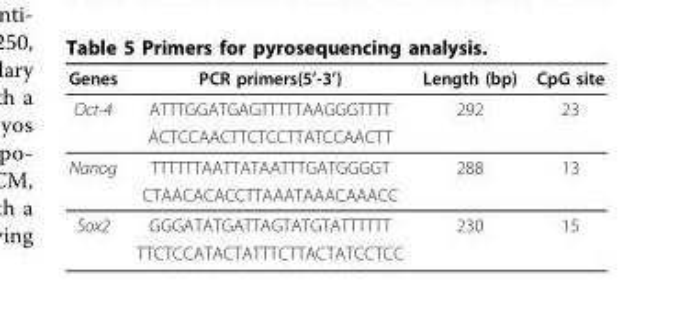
<table><thead><tr><td>Genes</td><td>PCR primers(5’-3’)</td><td>Length (bp)</td><td>CpG site</td></tr></thead><tbody><tr><td rowspan="2">Oct-4</td><td>ATTTGGATGAGTTTTTAAGGGTTTT</td><td>292</td><td>23</td></tr><tr><td>ACTCCAACTTCTCCTTATCCAACTT</td><td></td><td></td></tr><tr><td rowspan="2">Nanog</td><td>TTTTTTAATTATAATTTGATGGGGT</td><td>288</td><td>13</td></tr><tr><td>CTAACACACCTTAAATAAACAAACC</td><td></td><td></td></tr><tr><td rowspan="2">Sox2</td><td>GGGATATGATTAGTATGTATTTTTT</td><td>230</td><td>15</td></tr><tr><td>TTCTCCATACTATTTCTTACTATCCTCC</td><td></td><td></td></tr></tbody></table>